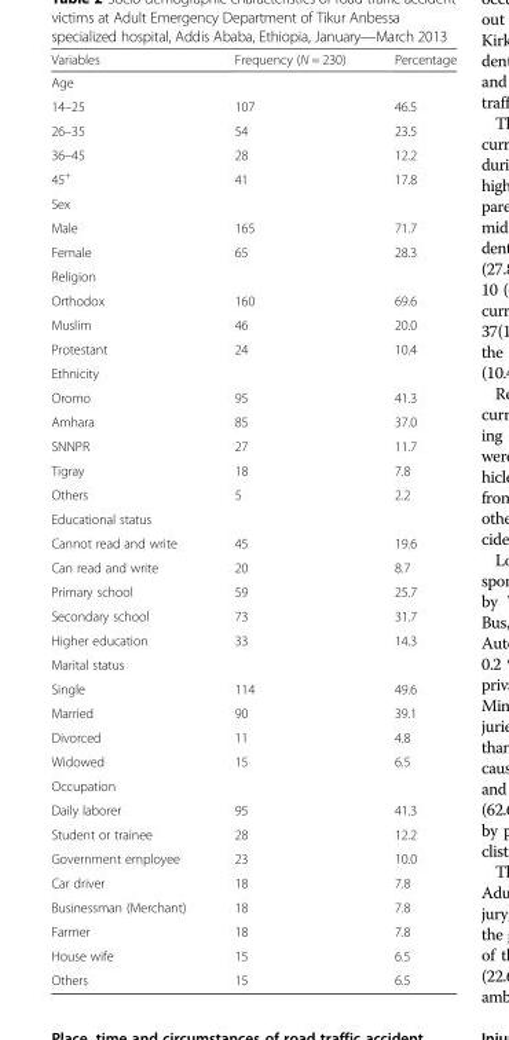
<table><thead><tr><td>Variables</td><td>Frequency (N = 230)</td><td>Percentage</td></tr></thead><tbody><tr><td colspan="3">Age</td></tr><tr><td>14–25</td><td>107</td><td>46.5</td></tr><tr><td>26–35</td><td>54</td><td>23.5</td></tr><tr><td>36–45</td><td>28</td><td>12.2</td></tr><tr><td>45<sup>+</sup></td><td>41</td><td>17.8</td></tr><tr><td colspan="3">Sex</td></tr><tr><td>Male</td><td>165</td><td>71.7</td></tr><tr><td>Female</td><td>65</td><td>28.3</td></tr><tr><td colspan="3">Religion</td></tr><tr><td>Orthodox</td><td>160</td><td>69.6</td></tr><tr><td>Muslim</td><td>46</td><td>20.0</td></tr><tr><td>Protestant</td><td>24</td><td>10.4</td></tr><tr><td colspan="3">Ethnicity</td></tr><tr><td>Oromo</td><td>95</td><td>41.3</td></tr><tr><td>Amhara</td><td>85</td><td>37.0</td></tr><tr><td>SNNPR</td><td>27</td><td>11.7</td></tr><tr><td>Tigray</td><td>18</td><td>7.8</td></tr><tr><td>Others</td><td>5</td><td>2.2</td></tr><tr><td colspan="3">Educational status</td></tr><tr><td>Cannot read and write</td><td>45</td><td>19.6</td></tr><tr><td>Can read and write</td><td>20</td><td>8.7</td></tr><tr><td>Primary school</td><td>59</td><td>25.7</td></tr><tr><td>Secondary school</td><td>73</td><td>31.7</td></tr><tr><td>Higher education</td><td>33</td><td>14.3</td></tr><tr><td colspan="3">Marital status</td></tr><tr><td>Single</td><td>114</td><td>49.6</td></tr><tr><td>Married</td><td>90</td><td>39.1</td></tr><tr><td>Divorced</td><td>11</td><td>4.8</td></tr><tr><td>Widowed</td><td>15</td><td>6.5</td></tr><tr><td colspan="3">Occupation</td></tr><tr><td>Daily laborer</td><td>95</td><td>41.3</td></tr><tr><td>Student or trainee</td><td>28</td><td>12.2</td></tr><tr><td>Government employee</td><td>23</td><td>10.0</td></tr><tr><td>Car driver</td><td>18</td><td>7.8</td></tr><tr><td>Businessman (Merchant)</td><td>18</td><td>7.8</td></tr><tr><td>Farmer</td><td>18</td><td>7.8</td></tr><tr><td>House wife</td><td>15</td><td>6.5</td></tr><tr><td>Others</td><td>15</td><td>6.5</td></tr></tbody></table>